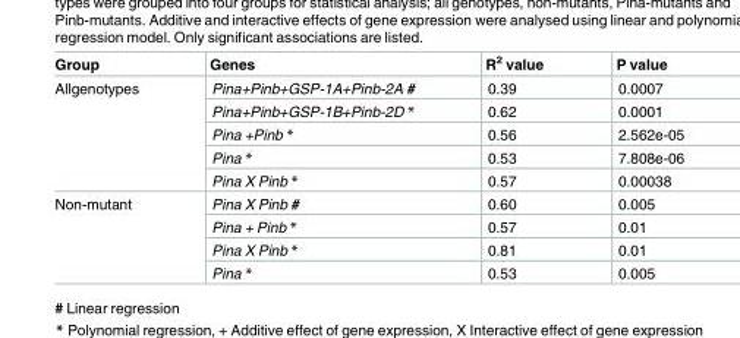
<table><thead><tr><td>Group</td><td>Genes</td><td>R<sup>2</sup> value</td><td>P value</td></tr></thead><tbody><tr><td rowspan="5">Allgenotypes</td><td>Pina+Pinb+GSP-1A+Pinb-2A #</td><td>0.39</td><td>0.0007</td></tr><tr><td>Pina+Pinb+GSP-1B+Pinb-2D *</td><td>0.62</td><td>0.0001</td></tr><tr><td>Pina +Pinb *</td><td>0.56</td><td>2.562e-05</td></tr><tr><td>Pina *</td><td>0.53</td><td>7.808e-06</td></tr><tr><td>Pina X Pinb *</td><td>0.57</td><td>0.00038</td></tr><tr><td rowspan="4">Non-mutant</td><td>Pina X Pinb #</td><td>0.60</td><td>0.005</td></tr><tr><td>Pina + Pinb *</td><td>0.57</td><td>0.01</td></tr><tr><td>Pina X Pinb *</td><td>0.81</td><td>0.01</td></tr><tr><td>Pina *</td><td>0.53</td><td>0.005</td></tr></tbody></table>